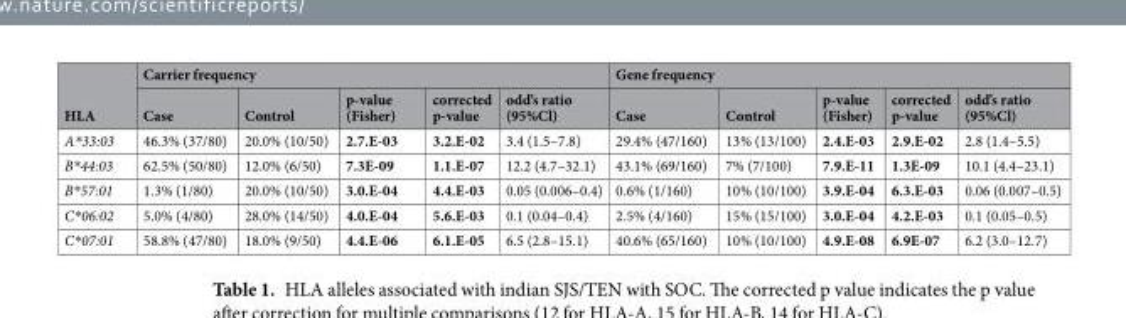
<table><thead><tr><td rowspan="2">HLA</td><td colspan="5">Carrier frequency</td><td colspan="5">Gene frequency</td></tr><tr><td>Case</td><td>Control</td><td>p-value (Fisher)</td><td>corrected p-value</td><td>odd’s ratio (95%Cl)</td><td>Case</td><td>Control</td><td>p-value (Fisher)</td><td>corrected p-value</td><td>odd’s ratio (95%Cl)</td></tr></thead><tbody><tr><td>A*33:03</td><td>46.3% (37/80)</td><td>20.0% (10/50)</td><td>2.7.E-03</td><td>3.2.E-02</td><td>3.4 (1.5–7.8)</td><td>29.4% (47/160)</td><td>13% (13/100)</td><td>2.4.E-03</td><td>2.9.E-02</td><td>2.8 (1.4–5.5)</td></tr><tr><td>B*44:03</td><td>62.5% (50/80)</td><td>12.0% (6/50)</td><td>7.3E-09</td><td>1.1.E-07</td><td>12.2 (4.7–32.1)</td><td>43.1% (69/160)</td><td>7% (7/100)</td><td>7.9.E-11</td><td>1.3E-09</td><td>10.1 (4.4–23.1)</td></tr><tr><td>B*57:01</td><td>1.3% (1/80)</td><td>20.0% (10/50)</td><td>3.0.E-04</td><td>4.4.E-03</td><td>0.05 (0.006–0.4)</td><td>0.6% (1/160)</td><td>10% (10/100)</td><td>3.9.E-04</td><td>6.3.E-03</td><td>0.06 (0.007–0.5)</td></tr><tr><td>C*06:02</td><td>5.0% (4/80)</td><td>28.0% (14/50)</td><td>4.0.E-04</td><td>5.6.E-03</td><td>0.1 (0.04–0.4)</td><td>2.5% (4/160)</td><td>15% (15/100)</td><td>3.0.E-04</td><td>4.2.E-03</td><td>0.1 (0.05–0.5)</td></tr><tr><td>C*07:01</td><td>58.8% (47/80)</td><td>18.0% (9/50)</td><td>4.4.E-06</td><td>6.1.E-05</td><td>6.5 (2.8–15.1)</td><td>40.6% (65/160)</td><td>10% (10/100)</td><td>4.9.E-08</td><td>6.9E-07</td><td>6.2 (3.0–12.7)</td></tr></tbody></table>